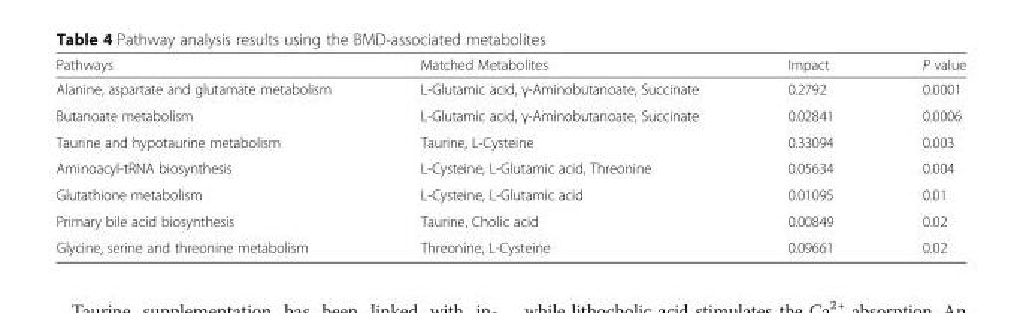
<table><thead><tr><td>Pathways</td><td>Matched Metabolites</td><td>Impact</td><td>P value</td></tr></thead><tbody><tr><td>Alanine, aspartate and glutamate metabolism</td><td>L-Glutamic acid, γ-Aminobutanoate, Succinate</td><td>0.2792</td><td>0.0001</td></tr><tr><td>Butanoate metabolism</td><td>L-Glutamic acid, γ-Aminobutanoate, Succinate</td><td>0.02841</td><td>0.0006</td></tr><tr><td>Taurine and hypotaurine metabolism</td><td>Taurine, L-Cysteine</td><td>0.33094</td><td>0.003</td></tr><tr><td>Aminoacyl-tRNA biosynthesis</td><td>L-Cysteine, L-Glutamic acid, Threonine</td><td>0.05634</td><td>0.004</td></tr><tr><td>Glutathione metabolism</td><td>L-Cysteine, L-Glutamic acid</td><td>0.01095</td><td>0.01</td></tr><tr><td>Primary bile acid biosynthesis</td><td>Taurine, Cholic acid</td><td>0.00849</td><td>0.02</td></tr><tr><td>Glycine, serine and threonine metabolism</td><td>Threonine, L-Cysteine</td><td>0.09661</td><td>0.02</td></tr></tbody></table>